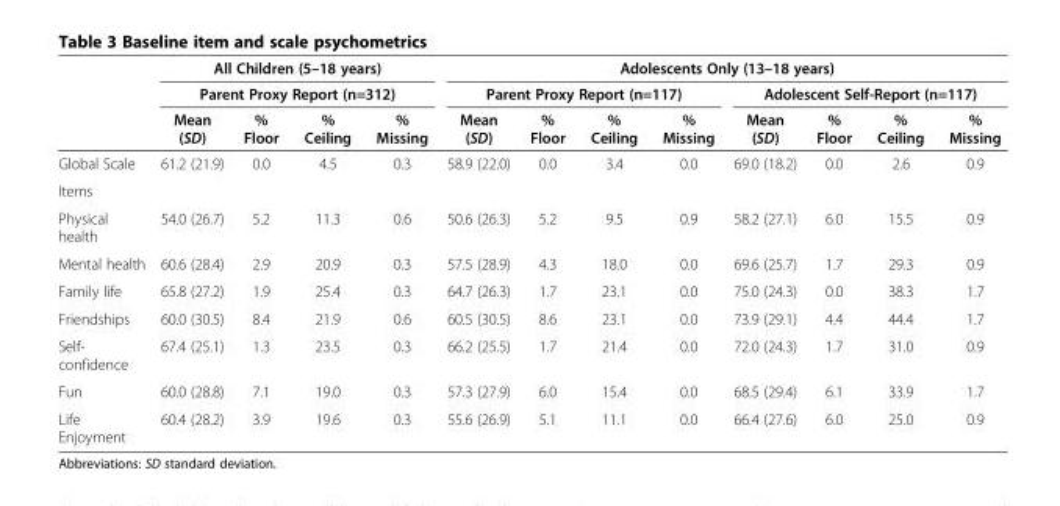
<table><thead><tr><td rowspan="3"></td><td rowspan="2" colspan="4">All Children (5–18 years) Parent Proxy Report (n=312)</td><td colspan="8">Adolescents Only (13–18 years)</td></tr><tr><td colspan="4">Parent Proxy Report (n=117)</td><td colspan="4">Adolescent Self-Report (n=117)</td></tr><tr><td>Mean (SD)</td><td>% Floor</td><td>% Ceiling</td><td>% Missing</td><td>Mean (SD)</td><td>% Floor</td><td>% Ceiling</td><td>% Missing</td><td>Mean (SD)</td><td>% Floor</td><td>% Ceiling</td><td>% Missing</td></tr></thead><tbody><tr><td>Global Scale</td><td>61.2 (21.9)</td><td>0.0</td><td>4.5</td><td>0.3</td><td>58.9 (22.0)</td><td>0.0</td><td>3.4</td><td>0.0</td><td>69.0 (18.2)</td><td>0.0</td><td>2.6</td><td>0.9</td></tr><tr><td colspan="13">Items</td></tr><tr><td>Physical health</td><td>54.0 (26.7)</td><td>5.2</td><td>11.3</td><td>0.6</td><td>50.6 (26.3)</td><td>5.2</td><td>9.5</td><td>0.9</td><td>58.2 (27.1)</td><td>6.0</td><td>15.5</td><td>0.9</td></tr><tr><td>Mental health</td><td>60.6 (28.4)</td><td>2.9</td><td>20.9</td><td>0.3</td><td>57.5 (28.9)</td><td>4.3</td><td>18.0</td><td>0.0</td><td>69.6 (25.7)</td><td>1.7</td><td>29.3</td><td>0.9</td></tr><tr><td>Family life</td><td>65.8 (27.2)</td><td>1.9</td><td>25.4</td><td>0.3</td><td>64.7 (26.3)</td><td>1.7</td><td>23.1</td><td>0.0</td><td>75.0 (24.3)</td><td>0.0</td><td>38.3</td><td>1.7</td></tr><tr><td>Friendships</td><td>60.0 (30.5)</td><td>8.4</td><td>21.9</td><td>0.6</td><td>60.5 (30.5)</td><td>8.6</td><td>23.1</td><td>0.0</td><td>73.9 (29.1)</td><td>4.4</td><td>44.4</td><td>1.7</td></tr><tr><td>Self- confidence</td><td>67.4 (25.1)</td><td>1.3</td><td>23.5</td><td>0.3</td><td>66.2 (25.5)</td><td>1.7</td><td>21.4</td><td>0.0</td><td>72.0 (24.3)</td><td>1.7</td><td>31.0</td><td>0.9</td></tr><tr><td>Fun</td><td>60.0 (28.8)</td><td>7.1</td><td>19.0</td><td>0.3</td><td>57.3 (27.9)</td><td>6.0</td><td>15.4</td><td>0.0</td><td>68.5 (29.4)</td><td>6.1</td><td>33.9</td><td>1.7</td></tr><tr><td>Life Enjoyment</td><td>60.4 (28.2)</td><td>3.9</td><td>19.6</td><td>0.3</td><td>55.6 (26.9)</td><td>5.1</td><td>11.1</td><td>0.0</td><td>66.4 (27.6)</td><td>6.0</td><td>25.0</td><td>0.9</td></tr></tbody></table>